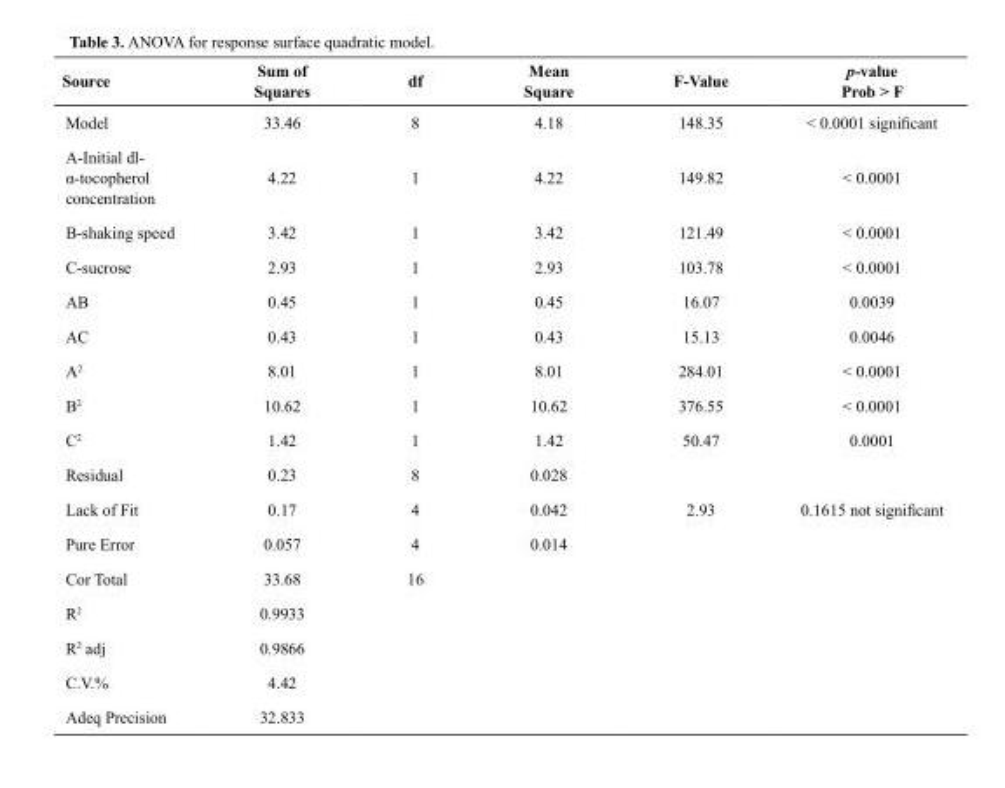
<table><thead><tr><td>Source</td><td>Sum of Squares</td><td>df</td><td>Mean Square</td><td>F-Value</td><td>p-value Prob &gt; F</td></tr></thead><tbody><tr><td>Model</td><td>33.46</td><td>8</td><td>4.18</td><td>148.35</td><td>&lt; 0.0001 significant</td></tr><tr><td>A-Initial dl- α-tocopherol concentration</td><td>4.22</td><td>1</td><td>4.22</td><td>149.82</td><td>&lt; 0.0001</td></tr><tr><td>B-shaking speed</td><td>3.42</td><td>1</td><td>3.42</td><td>121.49</td><td>&lt; 0.0001</td></tr><tr><td>C-sucrose</td><td>2.93</td><td>1</td><td>2.93</td><td>103.78</td><td>&lt; 0.0001</td></tr><tr><td>AB</td><td>0.45</td><td>1</td><td>0.45</td><td>16.07</td><td>0.0039</td></tr><tr><td>AC</td><td>0.43</td><td>1</td><td>0.43</td><td>15.13</td><td>0.0046</td></tr><tr><td>A2</td><td>8.01</td><td>1</td><td>8.01</td><td>284.01</td><td>&lt; 0.0001</td></tr><tr><td>B2</td><td>10.62</td><td>1</td><td>10.62</td><td>376.55</td><td>&lt; 0.0001</td></tr><tr><td>C2</td><td>1.42</td><td>1</td><td>1.42</td><td>50.47</td><td>0.0001</td></tr><tr><td>Residual</td><td>0.23</td><td>8</td><td>0.028</td><td></td><td></td></tr><tr><td>Lack of Fit</td><td>0.17</td><td>4</td><td>0.042</td><td>2.93</td><td>0.1615 not significant</td></tr><tr><td>Pure Error</td><td>0.057</td><td>4</td><td>0.014</td><td></td><td></td></tr><tr><td>Cor Total</td><td>33.68</td><td>16</td><td></td><td></td><td></td></tr><tr><td>R<sup>2</sup></td><td>0.9933</td><td></td><td></td><td></td><td></td></tr><tr><td>R<sup>2</sup> adj</td><td>0.9866</td><td></td><td></td><td></td><td></td></tr><tr><td>C.V.%</td><td>4.42</td><td></td><td></td><td></td><td></td></tr><tr><td>Adeq Precision</td><td>32.833</td><td></td><td></td><td></td><td></td></tr></tbody></table>